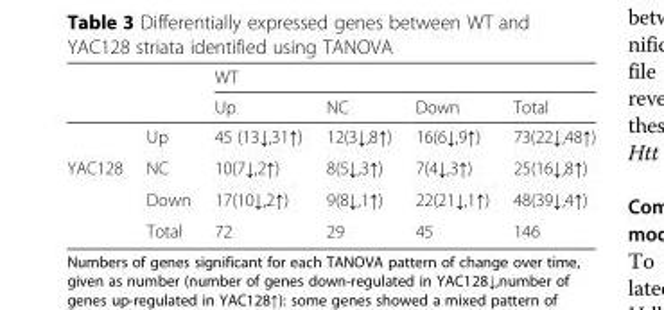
<table><thead><tr><td rowspan="2"></td><td rowspan="2"></td><td colspan="4">WT</td></tr><tr><td>Up</td><td>NC</td><td>Down</td><td>Total</td></tr></thead><tbody><tr><td></td><td>Up</td><td>45 (13↓,31↑)</td><td>12(3↓,8↑)</td><td>16(6↓,9↑)</td><td>73(22↓,48↑)</td></tr><tr><td rowspan="3">YAC128</td><td>NC</td><td>10(7↓,2↑)</td><td>8(5↓,3↑)</td><td>7(4↓,3↑)</td><td>25(16↓,8↑)</td></tr><tr><td>Down</td><td>17(10↓,2↑)</td><td>9(8↓,1↑)</td><td>22(21↓,1↑)</td><td>48(39↓,4↑)</td></tr><tr><td>Total</td><td>72</td><td>29</td><td>45</td><td>146</td></tr></tbody></table>